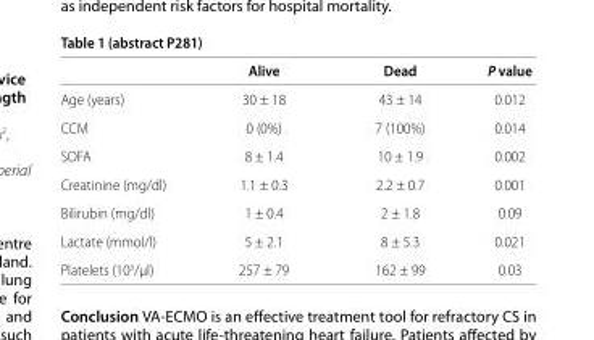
<table><thead><tr><td></td><td>Alive</td><td>Dead</td><td>P value</td></tr></thead><tbody><tr><td>Age (years)</td><td>30 ± 18</td><td>43 ± 14</td><td>0.012</td></tr><tr><td>CCM</td><td>0 (0%)</td><td>7 (100%)</td><td>0.014</td></tr><tr><td>SOFA</td><td>8 ± 1.4</td><td>10 ± 1.9</td><td>0.002</td></tr><tr><td>Creatinine (mg/dl)</td><td>1.1 ± 0.3</td><td>2.2 ± 0.7</td><td>0.001</td></tr><tr><td>Bilirubin (mg/dl)</td><td>1 ± 0.4</td><td>2 ± 1.8</td><td>0.09</td></tr><tr><td>Lactate (mmol/l)</td><td>5 ± 2.1</td><td>8 ± 5.3</td><td>0.021</td></tr><tr><td>Platelets (103/μl)</td><td>257 ± 79</td><td>162 ± 99</td><td>0.03</td></tr></tbody></table>